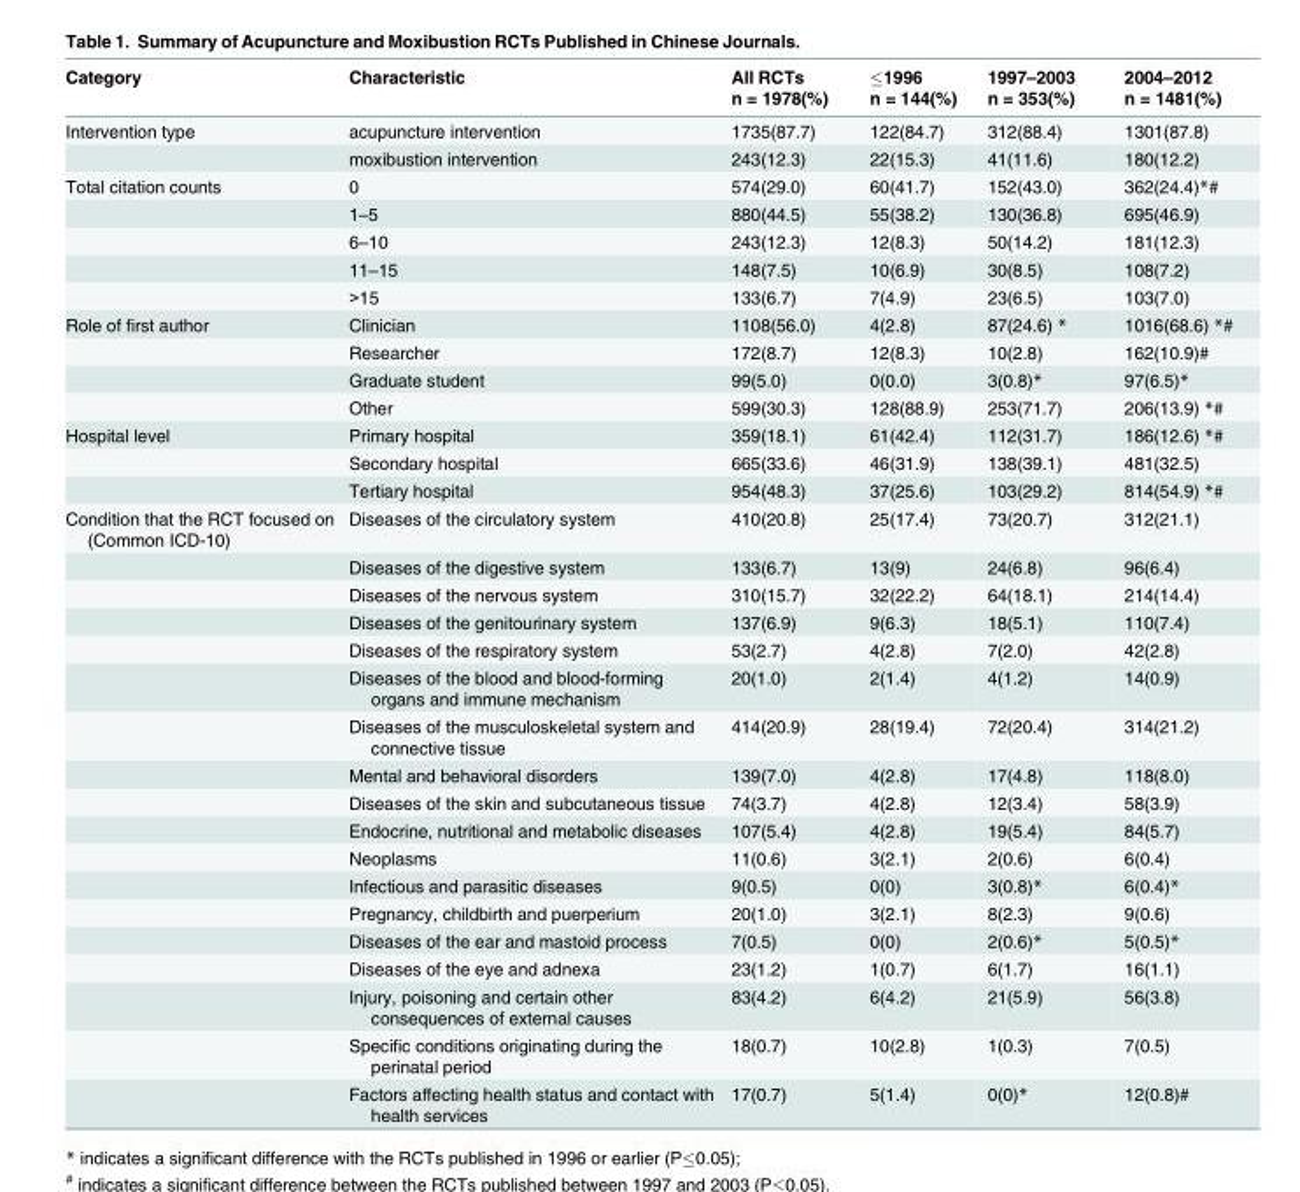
<table><thead><tr><td>Category</td><td>Characteristic</td><td>All RCTs n = 1978(%)</td><td>≤1996 n = 144(%)</td><td>1997–2003 n = 353(%)</td><td>2004–2012 n = 1481(%)</td></tr></thead><tbody><tr><td rowspan="2">Intervention type</td><td>acupuncture intervention</td><td>1735(87.7)</td><td>122(84.7)</td><td>312(88.4)</td><td>1301(87.8)</td></tr><tr><td>moxibustion intervention</td><td>243(12.3)</td><td>22(15.3)</td><td>41(11.6)</td><td>180(12.2)</td></tr><tr><td rowspan="5">Total citation counts</td><td>0</td><td>574(29.0)</td><td>60(41.7)</td><td>152(43.0)</td><td>362(24.4)*#</td></tr><tr><td>1–5</td><td>880(44.5)</td><td>55(38.2)</td><td>130(36.8)</td><td>695(46.9)</td></tr><tr><td>6–10</td><td>243(12.3)</td><td>12(8.3)</td><td>50(14.2)</td><td>181(12.3)</td></tr><tr><td>11–15</td><td>148(7.5)</td><td>10(6.9)</td><td>30(8.5)</td><td>108(7.2)</td></tr><tr><td>&gt;15</td><td>133(6.7)</td><td>7(4.9)</td><td>23(6.5)</td><td>103(7.0)</td></tr><tr><td rowspan="4">Role of first author</td><td>Clinician</td><td>1108(56.0)</td><td>4(2.8)</td><td>87(24.6) *</td><td>1016(68.6) *#</td></tr><tr><td>Researcher</td><td>172(8.7)</td><td>12(8.3)</td><td>10(2.8)</td><td>162(10.9)#</td></tr><tr><td>Graduate student</td><td>99(5.0)</td><td>0(0.0)</td><td>3(0.8)*</td><td>97(6.5)*</td></tr><tr><td>Other</td><td>599(30.3)</td><td>128(88.9)</td><td>253(71.7)</td><td>206(13.9) *#</td></tr><tr><td rowspan="3">Hospital level</td><td>Primary hospital</td><td>359(18.1)</td><td>61(42.4)</td><td>112(31.7)</td><td>186(12.6) *#</td></tr><tr><td>Secondary hospital</td><td>665(33.6)</td><td>46(31.9)</td><td>138(39.1)</td><td>481(32.5)</td></tr><tr><td>Tertiary hospital</td><td>954(48.3)</td><td>37(25.6)</td><td>103(29.2)</td><td>814(54.9) *#</td></tr><tr><td rowspan="18">Condition that the RCT focused on (Common ICD-10)</td><td>Diseases of the circulatory system</td><td>410(20.8)</td><td>25(17.4)</td><td>73(20.7)</td><td>312(21.1)</td></tr><tr><td>Diseases of the digestive system</td><td>133(6.7)</td><td>13(9)</td><td>24(6.8)</td><td>96(6.4)</td></tr><tr><td>Diseases of the nervous system</td><td>310(15.7)</td><td>32(22.2)</td><td>64(18.1)</td><td>214(14.4)</td></tr><tr><td>Diseases of the genitourinary system</td><td>137(6.9)</td><td>9(6.3)</td><td>18(5.1)</td><td>110(7.4)</td></tr><tr><td>Diseases of the respiratory system</td><td>53(2.7)</td><td>4(2.8)</td><td>7(2.0)</td><td>42(2.8)</td></tr><tr><td>Diseases of the blood and blood-forming organs and immune mechanism</td><td>20(1.0)</td><td>2(1.4)</td><td>4(1.2)</td><td>14(0.9)</td></tr><tr><td>Diseases of the musculoskeletal system and connective tissue</td><td>414(20.9)</td><td>28(19.4)</td><td>72(20.4)</td><td>314(21.2)</td></tr><tr><td>Mental and behavioral disorders</td><td>139(7.0)</td><td>4(2.8)</td><td>17(4.8)</td><td>118(8.0)</td></tr><tr><td>Diseases of the skin and subcutaneous tissue</td><td>74(3.7)</td><td>4(2.8)</td><td>12(3.4)</td><td>58(3.9)</td></tr><tr><td>Endocrine, nutritional and metabolic diseases</td><td>107(5.4)</td><td>4(2.8)</td><td>19(5.4)</td><td>84(5.7)</td></tr><tr><td>Neoplasms</td><td>11(0.6)</td><td>3(2.1)</td><td>2(0.6)</td><td>6(0.4)</td></tr><tr><td>Infectious and parasitic diseases</td><td>9(0.5)</td><td>0(0)</td><td>3(0.8)*</td><td>6(0.4)*</td></tr><tr><td>Pregnancy, childbirth and puerperium</td><td>20(1.0)</td><td>3(2.1)</td><td>8(2.3)</td><td>9(0.6)</td></tr><tr><td>Diseases of the ear and mastoid process</td><td>7(0.5)</td><td>0(0)</td><td>2(0.6)*</td><td>5(0.5)*</td></tr><tr><td>Diseases of the eye and adnexa</td><td>23(1.2)</td><td>1(0.7)</td><td>6(1.7)</td><td>16(1.1)</td></tr><tr><td>Injury, poisoning and certain other consequences of external causes</td><td>83(4.2)</td><td>6(4.2)</td><td>21(5.9)</td><td>56(3.8)</td></tr><tr><td>Specific conditions originating during the perinatal period</td><td>18(0.7)</td><td>10(2.8)</td><td>1(0.3)</td><td>7(0.5)</td></tr><tr><td>Factors affecting health status and contact with health services</td><td>17(0.7)</td><td>5(1.4)</td><td>0(0)*</td><td>12(0.8)#</td></tr></tbody></table>